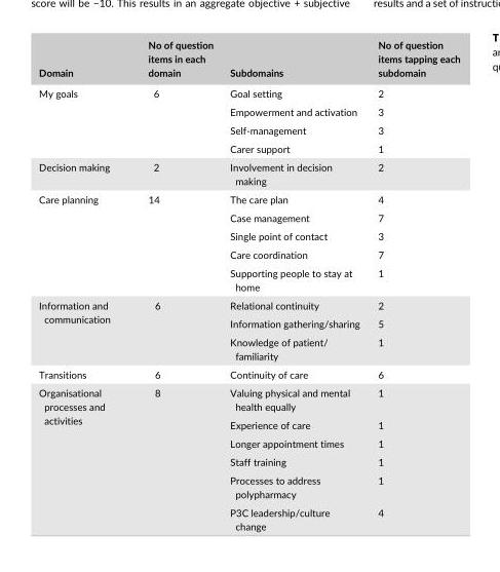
<table><thead><tr><td>Domain</td><td>No of question items in each domain</td><td>Subdomains</td><td>No of question items tapping each subdomain</td></tr></thead><tbody><tr><td rowspan="4">My goals</td><td rowspan="4">6</td><td>Goal setting</td><td>2</td></tr><tr><td>Empowerment and activation</td><td>3</td></tr><tr><td>Self- management</td><td>3</td></tr><tr><td>Carer support</td><td>1</td></tr><tr><td>Decision making</td><td>2</td><td>Involvement in decision making</td><td>2</td></tr><tr><td rowspan="5">Care planning</td><td rowspan="5">14</td><td>The care plan</td><td>4</td></tr><tr><td>Case management</td><td>7</td></tr><tr><td>Single point of contact</td><td>3</td></tr><tr><td>Care coordination</td><td>7</td></tr><tr><td>Supporting people to stay at home</td><td>1</td></tr><tr><td rowspan="3">Information and communication</td><td rowspan="3">6</td><td>Relational continuity</td><td>2</td></tr><tr><td>Information gathering/sharing</td><td>5</td></tr><tr><td>Knowledge of patient/ familiarity</td><td>1</td></tr><tr><td>Transitions</td><td>6</td><td>Continuity of care</td><td>6</td></tr><tr><td rowspan="6">Organisational processes and activities</td><td rowspan="6">8</td><td>Valuing physical and mental health equally</td><td>1</td></tr><tr><td>Experience of care</td><td>1</td></tr><tr><td>Longer appointment times</td><td>1</td></tr><tr><td>Staff training</td><td>1</td></tr><tr><td>Processes to address polypharmacy</td><td>1</td></tr><tr><td>P3C leadership/culture change</td><td>4</td></tr></tbody></table>